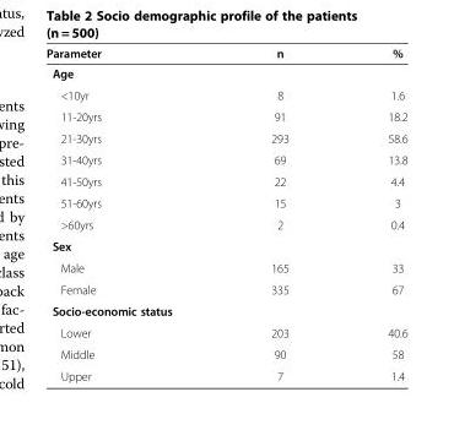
<table><thead><tr><td>Parameter</td><td>n</td><td>%</td></tr></thead><tbody><tr><td colspan="3">Age</td></tr><tr><td>&lt;10yr</td><td>8</td><td>1.6</td></tr><tr><td>11-20yrs</td><td>91</td><td>18.2</td></tr><tr><td>21-30yrs</td><td>293</td><td>58.6</td></tr><tr><td>31-40yrs</td><td>69</td><td>13.8</td></tr><tr><td>41-50yrs</td><td>22</td><td>4.4</td></tr><tr><td>51-60yrs</td><td>15</td><td>3</td></tr><tr><td>&gt;60yrs</td><td>2</td><td>0.4</td></tr><tr><td colspan="3">Sex</td></tr><tr><td>Male</td><td>165</td><td>33</td></tr><tr><td>Female</td><td>335</td><td>67</td></tr><tr><td colspan="3">Socio-economic status</td></tr><tr><td>Lower</td><td>203</td><td>40.6</td></tr><tr><td>Middle</td><td>90</td><td>58</td></tr><tr><td>Upper</td><td>7</td><td>1.4</td></tr></tbody></table>